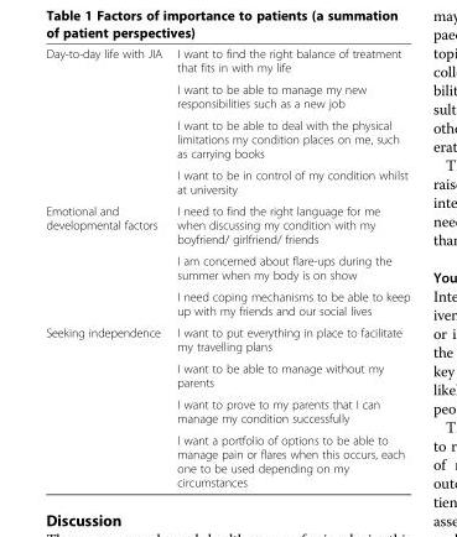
<table><tbody><tr><td rowspan="4">Day-to-day life with JIA</td><td>I want to find the right balance of treatment that fits in with my life</td></tr><tr><td>I want to be able to manage my new responsibilities such as a new job</td></tr><tr><td>I want to be able to deal with the physical limitations my condition places on me, such as carrying books</td></tr><tr><td>I want to be in control of my condition whilst at university</td></tr><tr><td rowspan="3">Emotional and developmental factors</td><td>I need to find the right language for me when discussing my condition with my boyfriend/ girlfriend/ friends</td></tr><tr><td>I am concerned about flare-ups during the summer when my body is on show</td></tr><tr><td>I need coping mechanisms to be able to keep up with my friends and our social lives</td></tr><tr><td rowspan="4">Seeking independence</td><td>I want to put everything in place to facilitate my travelling plans</td></tr><tr><td>I want to be able to manage without my parents</td></tr><tr><td>I want to prove to my parents that I can manage my condition successfully</td></tr><tr><td>I want a portfolio of options to be able to manage pain or flares when this occurs, each one to be used depending on my circumstances</td></tr></tbody></table>